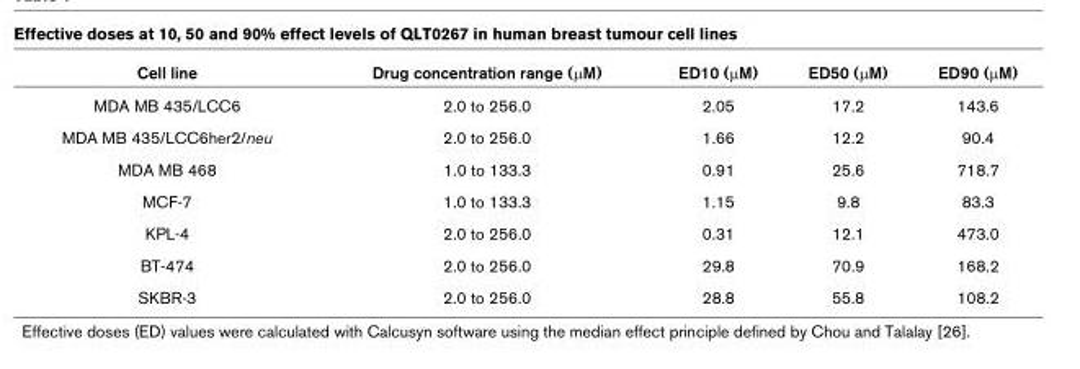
<table><thead><tr><td>Cell line</td><td>Drug concentration range (μM)</td><td>ED10 (μM)</td><td>ED50 (μM)</td><td>ED90 (μM)</td></tr></thead><tbody><tr><td>MDA MB 435/LCC6</td><td>2.0 to 256.0</td><td>2.05</td><td>17.2</td><td>143.6</td></tr><tr><td>MDA MB 435/LCC6her2/neu</td><td>2.0 to 256.0</td><td>1.66</td><td>12.2</td><td>90.4</td></tr><tr><td>MDA MB 468</td><td>1.0 to 133.3</td><td>0.91</td><td>25.6</td><td>718.7</td></tr><tr><td>MCF-7</td><td>1.0 to 133.3</td><td>1.15</td><td>9.8</td><td>83.3</td></tr><tr><td>KPL-4</td><td>2.0 to 256.0</td><td>0.31</td><td>12.1</td><td>473.0</td></tr><tr><td>BT-474</td><td>2.0 to 256.0</td><td>29.8</td><td>70.9</td><td>168.2</td></tr><tr><td>SKBR-3</td><td>2.0 to 256.0</td><td>28.8</td><td>55.8</td><td>108.2</td></tr></tbody></table>